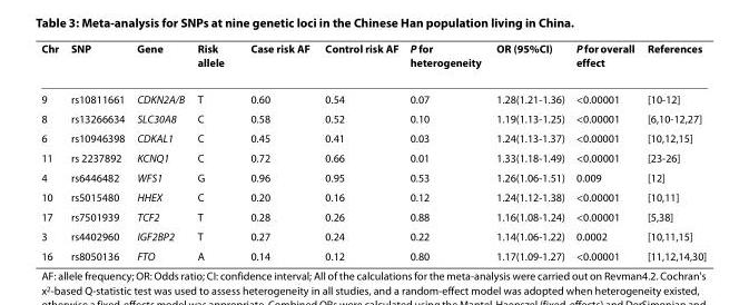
<table><thead><tr><td>Chr</td><td>SNP</td><td>Gene</td><td>Risk allele</td><td>Case risk AF</td><td>Control risk AF</td><td>P for heterogeneity</td><td>OR (95%CI)</td><td>P for overall effect</td><td>References</td></tr></thead><tbody><tr><td>9</td><td>rs10811661</td><td>CDKN2A/B</td><td>T</td><td>0.60</td><td>0.54</td><td>0.07</td><td>1.28(1.21-1.36)</td><td>&lt;0.00001</td><td>[10-12]</td></tr><tr><td>8</td><td>rs13266634</td><td>SLC30A8</td><td>C</td><td>0.58</td><td>0.52</td><td>0.10</td><td>1.19(1.13-1.25)</td><td>&lt;0.00001</td><td>[6,10-12,27]</td></tr><tr><td>6</td><td>rs10946398</td><td>CDKAL1</td><td>C</td><td>0.45</td><td>0.41</td><td>0.03</td><td>1.24(1.13-1.37)</td><td>&lt;0.00001</td><td>[10,12,15]</td></tr><tr><td>11</td><td>rs 2237892</td><td>KCNQ1</td><td>C</td><td>0.72</td><td>0.66</td><td>0.01</td><td>1.33(1.18-1.49)</td><td>&lt;0.00001</td><td>[23-26]</td></tr><tr><td>4</td><td>rs6446482</td><td>WFS1</td><td>G</td><td>0.96</td><td>0.95</td><td>0.53</td><td>1.26(1.06-1.51)</td><td>0.009</td><td>[12]</td></tr><tr><td>10</td><td>rs5015480</td><td>HHEX</td><td>C</td><td>0.20</td><td>0.16</td><td>0.12</td><td>1.24(1.12-1.38)</td><td>&lt;0.00001</td><td>[10,11]</td></tr><tr><td>17</td><td>rs7501939</td><td>TCF2</td><td>T</td><td>0.28</td><td>0.26</td><td>0.88</td><td>1.16(1.08-1.24)</td><td>&lt;0.00001</td><td>[5,38]</td></tr><tr><td>3</td><td>rs4402960</td><td>IGF2BP2</td><td>T</td><td>0.27</td><td>0.24</td><td>0.22</td><td>1.14(1.06-1.22)</td><td>0.0002</td><td>[10,11,15]</td></tr><tr><td>16</td><td>rs8050136</td><td>FTO</td><td>A</td><td>0.14</td><td>0.12</td><td>0.80</td><td>1.17(1.09-1.27)</td><td>&lt;0.00001</td><td>[11,12,14,30]</td></tr></tbody></table>